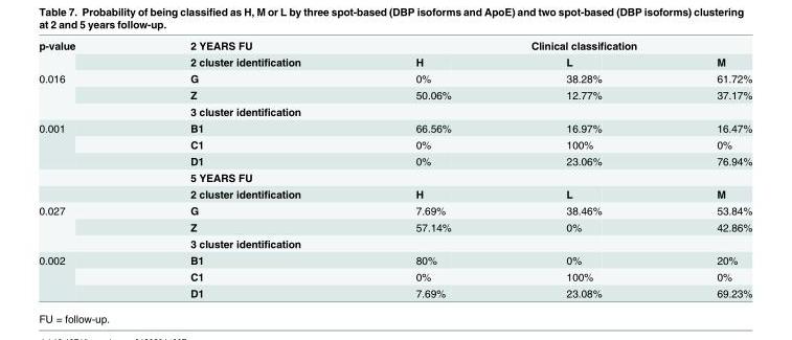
<table><tbody><tr><td rowspan="2">p-value</td><td>2 YEARS FU</td><td colspan="3">Clinical classification</td></tr><tr><td>2 cluster identification</td><td>H</td><td>L</td><td>M</td></tr><tr><td rowspan="3">0.016</td><td>G</td><td>0%</td><td>38.28%</td><td>61.72%</td></tr><tr><td>Z</td><td>50.06%</td><td>12.77%</td><td>37.17%</td></tr><tr><td>3 cluster identification</td><td></td><td></td><td></td></tr><tr><td rowspan="5">0.001</td><td>B1</td><td>66.56%</td><td>16.97%</td><td>16.47%</td></tr><tr><td>C1</td><td>0%</td><td>100%</td><td>0%</td></tr><tr><td>D1</td><td>0%</td><td>23.06%</td><td>76.94%</td></tr><tr><td>5 YEARS FU</td><td colspan="3"></td></tr><tr><td>2 cluster identification</td><td>H</td><td>L</td><td>M</td></tr><tr><td rowspan="3">0.027</td><td>G</td><td>7.69%</td><td>38.46%</td><td>53.84%</td></tr><tr><td>Z</td><td>57.14%</td><td>0%</td><td>42.86%</td></tr><tr><td>3 cluster identification</td><td></td><td></td><td></td></tr><tr><td rowspan="3">0.002</td><td>B1</td><td>80%</td><td>0%</td><td>20%</td></tr><tr><td>C1</td><td>0%</td><td>100%</td><td>0%</td></tr><tr><td>D1</td><td>7.69%</td><td>23.08%</td><td>69.23%</td></tr></tbody></table>